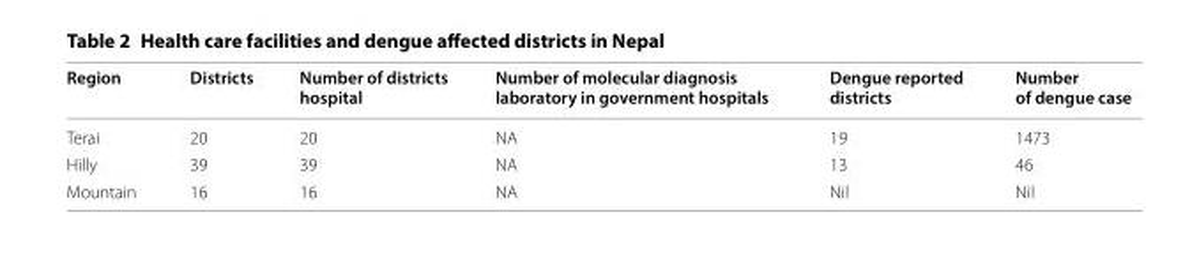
<table><thead><tr><td>Region</td><td>Districts</td><td>Number of districts hospital</td><td>Number of molecular diagnosis laboratory in government hospitals</td><td>Dengue reported districts</td><td>Number of dengue case</td></tr></thead><tbody><tr><td>Terai</td><td>20</td><td>20</td><td>NA</td><td>19</td><td>1473</td></tr><tr><td>Hilly</td><td>39</td><td>39</td><td>NA</td><td>13</td><td>46</td></tr><tr><td>Mountain</td><td>16</td><td>16</td><td>NA</td><td>Nil</td><td>Nil</td></tr></tbody></table>